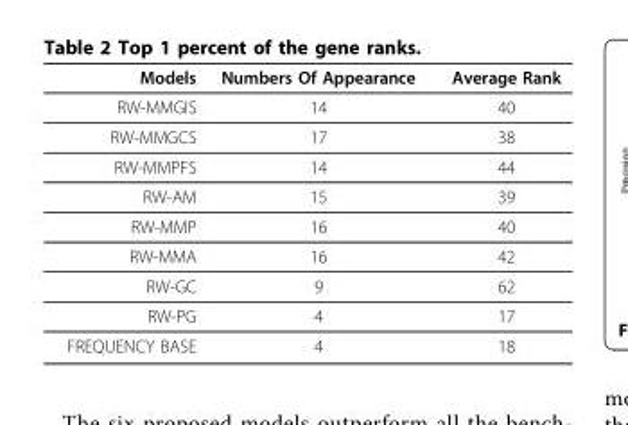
<table><thead><tr><td>Models</td><td>Numbers Of Appearance</td><td>Average Rank</td></tr></thead><tbody><tr><td>RW-MMGIS</td><td>14</td><td>40</td></tr><tr><td>RW-MMGCS</td><td>17</td><td>38</td></tr><tr><td>RW-MMPFS</td><td>14</td><td>44</td></tr><tr><td>RW-AM</td><td>15</td><td>39</td></tr><tr><td>RW-MMP</td><td>16</td><td>40</td></tr><tr><td>RW-MMA</td><td>16</td><td>42</td></tr><tr><td>RW-GC</td><td>9</td><td>62</td></tr><tr><td>RW-PG</td><td>4</td><td>17</td></tr><tr><td>FREQUENCY BASE</td><td>4</td><td>18</td></tr></tbody></table>